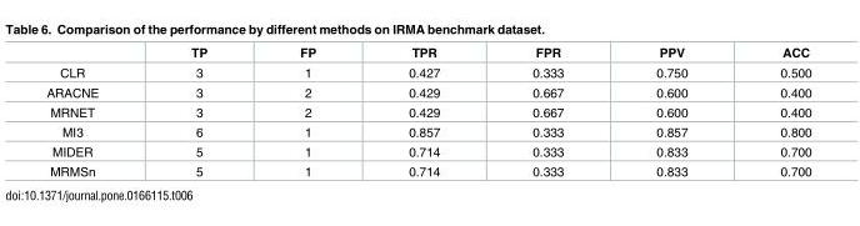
<table><thead><tr><td></td><td>TP</td><td>FP</td><td>TPR</td><td>FPR</td><td>PPV</td><td>ACC</td></tr></thead><tbody><tr><td>CLR</td><td>3</td><td>1</td><td>0.427</td><td>0.333</td><td>0.750</td><td>0.500</td></tr><tr><td>ARACNE</td><td>3</td><td>2</td><td>0.429</td><td>0.667</td><td>0.600</td><td>0.400</td></tr><tr><td>MRNET</td><td>3</td><td>2</td><td>0.429</td><td>0.667</td><td>0.600</td><td>0.400</td></tr><tr><td>MI3</td><td>6</td><td>1</td><td>0.857</td><td>0.333</td><td>0.857</td><td>0.800</td></tr><tr><td>MIDER</td><td>5</td><td>1</td><td>0.714</td><td>0.333</td><td>0.833</td><td>0.700</td></tr><tr><td>MRMSn</td><td>5</td><td>1</td><td>0.714</td><td>0.333</td><td>0.833</td><td>0.700</td></tr></tbody></table>